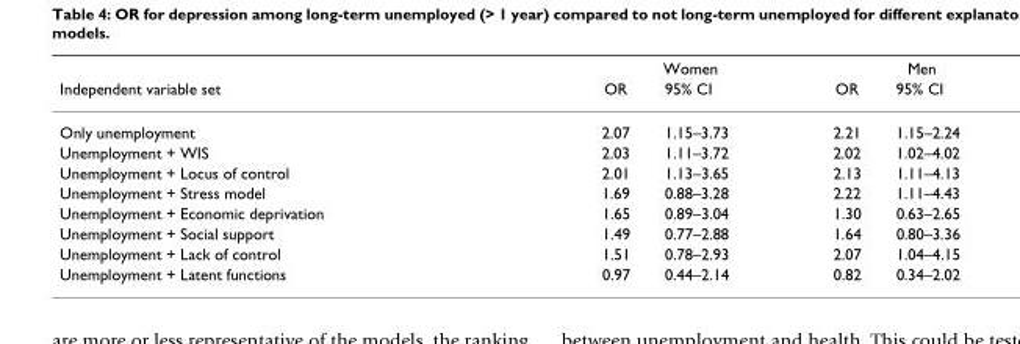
<table><thead><tr><td rowspan="2">Independent variable set</td><td colspan="2">Women</td><td colspan="2">Men</td></tr><tr><td>OR</td><td>95% CI</td><td>OR</td><td>95% CI</td></tr></thead><tbody><tr><td>Only unemployment</td><td>2.07</td><td>1.15–3.73</td><td>2.21</td><td>1.15–2.24</td></tr><tr><td>Unemployment + WIS</td><td>2.03</td><td>1.11–3.72</td><td>2.02</td><td>1.02–4.02</td></tr><tr><td>Unemployment + Locus of control</td><td>2.01</td><td>1.13–3.65</td><td>2.13</td><td>1.11–4.13</td></tr><tr><td>Unemployment + Stress model</td><td>1.69</td><td>0.88–3.28</td><td>2.22</td><td>1.11–4.43</td></tr><tr><td>Unemployment + Economic deprivation</td><td>1.65</td><td>0.89–3.04</td><td>1.30</td><td>0.63–2.65</td></tr><tr><td>Unemployment + Social support</td><td>1.49</td><td>0.77–2.88</td><td>1.64</td><td>0.80–3.36</td></tr><tr><td>Unemployment + Lack of control</td><td>1.51</td><td>0.78–2.93</td><td>2.07</td><td>1.04–4.15</td></tr><tr><td>Unemployment + Latent functions</td><td>0.97</td><td>0.44–2.14</td><td>0.82</td><td>0.34–2.02</td></tr></tbody></table>